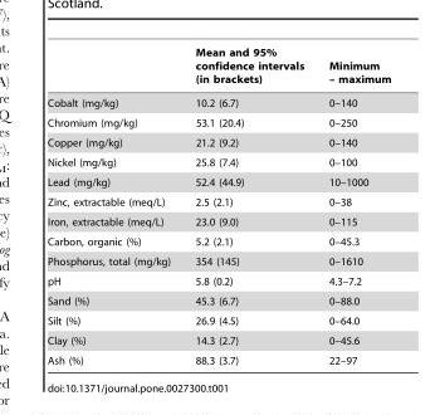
<table><thead><tr><td></td><td>Mean and 95% confidence intervals (in brackets)</td><td>Minimum – maximum</td></tr></thead><tbody><tr><td>Cobalt (mg/kg)</td><td>10.2 (6.7)</td><td>0–140</td></tr><tr><td>Chromium (mg/kg)</td><td>53.1 (20.4)</td><td>0–250</td></tr><tr><td>Copper (mg/kg)</td><td>21.2 (9.2)</td><td>0–140</td></tr><tr><td>Nickel (mg/kg)</td><td>25.8 (7.4)</td><td>0–100</td></tr><tr><td>Lead (mg/kg)</td><td>52.4 (44.9)</td><td>10–1000</td></tr><tr><td>Zinc, extractable (meq/L)</td><td>2.5 (2.1)</td><td>0–38</td></tr><tr><td>Iron, extractable (meq/L)</td><td>23.0 (9.0)</td><td>0–115</td></tr><tr><td>Carbon, organic (%)</td><td>5.2 (2.1)</td><td>0–45.3</td></tr><tr><td>Phosphorus, total (mg/kg)</td><td>354 (145)</td><td>0–1610</td></tr><tr><td>pH</td><td>5.8 (0.2)</td><td>4.3–7.2</td></tr><tr><td>Sand (%)</td><td>45.3 (6.7)</td><td>0–88.0</td></tr><tr><td>Silt (%)</td><td>26.9 (4.5)</td><td>0–64.0</td></tr><tr><td>Clay (%)</td><td>14.3 (2.7)</td><td>0–45.6</td></tr><tr><td>Ash (%)</td><td>88.3 (3.7)</td><td>22–97</td></tr></tbody></table>